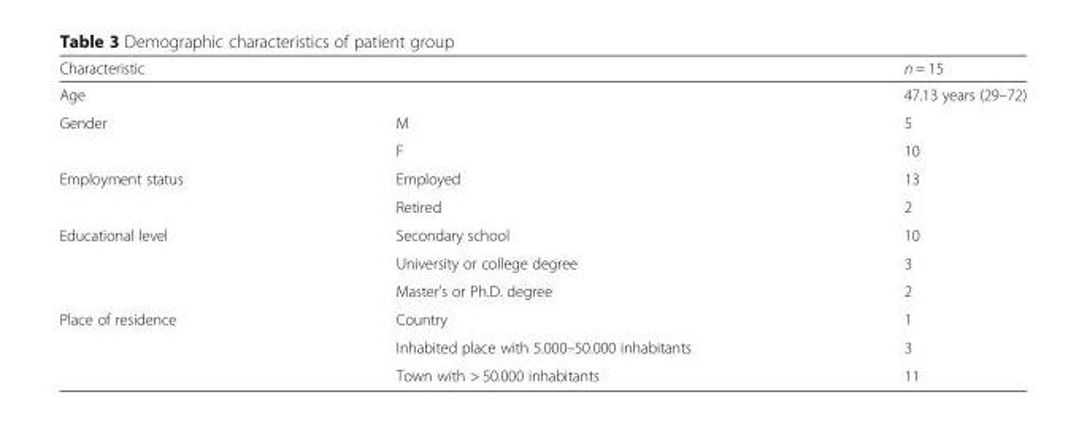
<table><thead><tr><td>Characteristic</td><td></td><td>n = 15</td></tr></thead><tbody><tr><td>Age</td><td></td><td>47.13 years (29–72)</td></tr><tr><td rowspan="2">Gender</td><td>M</td><td>5</td></tr><tr><td>F</td><td>10</td></tr><tr><td rowspan="2">Employment status</td><td>Employed</td><td>13</td></tr><tr><td>Retired</td><td>2</td></tr><tr><td rowspan="3">Educational level</td><td>Secondary school</td><td>10</td></tr><tr><td>University or college degree</td><td>3</td></tr><tr><td>Master’s or Ph.D. degree</td><td>2</td></tr><tr><td rowspan="3">Place of residence</td><td>Country</td><td>1</td></tr><tr><td>Inhabited place with 5.000–50.000 inhabitants</td><td>3</td></tr><tr><td>Town with &gt; 50.000 inhabitants</td><td>11</td></tr></tbody></table>